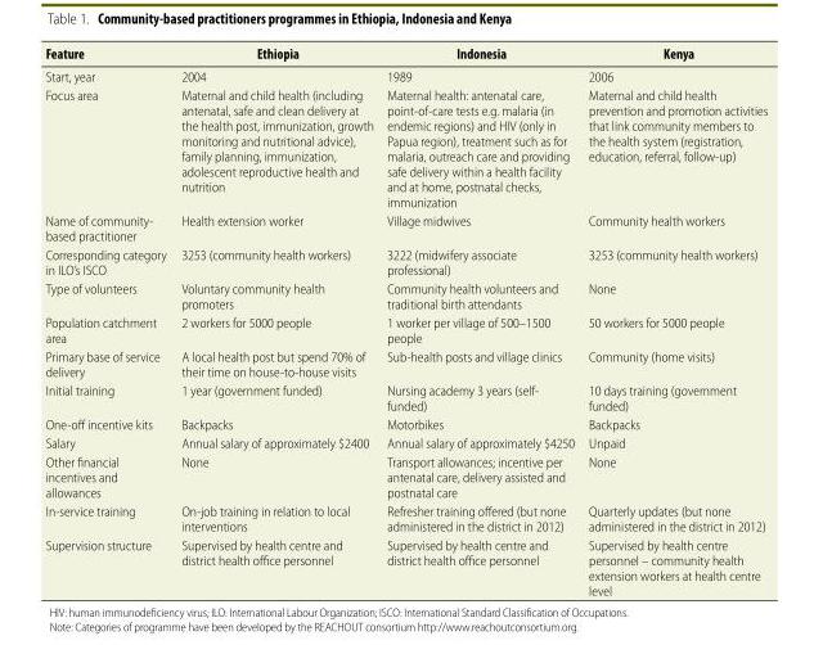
<table><thead><tr><td>Feature</td><td>Ethiopia</td><td>Indonesia</td><td>Kenya</td></tr></thead><tbody><tr><td>Start, year</td><td>2004</td><td>1989</td><td>2006</td></tr><tr><td>Focus area</td><td>Maternal and child health (including antenatal, safe and clean delivery at the health post, immunization, growth monitoring and nutritional advice), family planning, immunization, adolescent reproductive health and nutrition</td><td>Maternal health: antenatal care, point-of-care tests e.g. malaria (in endemic regions) and HIV (only in Papua region), treatment such as for malaria, outreach care and providing safe delivery within a health facility and at home, postnatal checks, immunization</td><td>Maternal and child health prevention and promotion activities that link community members to the health system (registration, education, referral, follow-up)</td></tr><tr><td>Name of community- based practitioner</td><td>Health extension worker</td><td>Village midwives</td><td>Community health workers</td></tr><tr><td>Corresponding category in ILO’s ISCO</td><td>3253 (community health workers)</td><td>3222 (midwifery associate professional)</td><td>3253 (community health workers)</td></tr><tr><td>Type of volunteers</td><td>Voluntary community health promoters</td><td>Community health volunteers and traditional birth attendants</td><td>None</td></tr><tr><td>Population catchment area</td><td>2 workers for 5000 people</td><td>1 worker per village of 500–1500 people</td><td>50 workers for 5000 people</td></tr><tr><td>Primary base of service delivery</td><td>A local health post but spend 70% of their time on house-to-house visits</td><td>Sub-health posts and village clinics</td><td>Community (home visits)</td></tr><tr><td>Initial training</td><td>1 year (government funded)</td><td>Nursing academy 3 years (self- funded)</td><td>10 days training (government funded)</td></tr><tr><td>One-off incentive kits</td><td>Backpacks</td><td>Motorbikes</td><td>Backpacks</td></tr><tr><td>Salary</td><td>Annual salary of approximately $2400</td><td>Annual salary of approximately $4250</td><td>Unpaid</td></tr><tr><td>Other financial incentives and allowances</td><td>None</td><td>Transport allowances; incentive per antenatal care, delivery assisted and postnatal care</td><td>None</td></tr><tr><td>In-service training</td><td>On-job training in relation to local interventions</td><td>Refresher training offered (but none administered in the district in 2012)</td><td>Quarterly updates (but none administered in the district in 2012)</td></tr><tr><td>Supervision structure</td><td>Supervised by health centre and district health office personnel</td><td>Supervised by health centre and district health office personnel</td><td>Supervised by health centre personnel – community health extension workers at health centre level</td></tr></tbody></table>